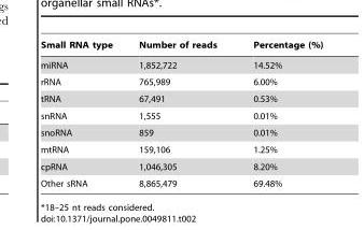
<table><thead><tr><td>Small RNA type</td><td>Number of reads</td><td>Percentage (%)</td></tr></thead><tbody><tr><td>miRNA</td><td>1,852,722</td><td>14.52%</td></tr><tr><td>rRNA</td><td>765,989</td><td>6.00%</td></tr><tr><td>tRNA</td><td>67,491</td><td>0.53%</td></tr><tr><td>snRNA</td><td>1,555</td><td>0.01%</td></tr><tr><td>snoRNA</td><td>859</td><td>0.01%</td></tr><tr><td>mtRNA</td><td>159,106</td><td>1.25%</td></tr><tr><td>cpRNA</td><td>1,046,305</td><td>8.20%</td></tr><tr><td>Other sRNA</td><td>8,865,479</td><td>69.48%</td></tr></tbody></table>